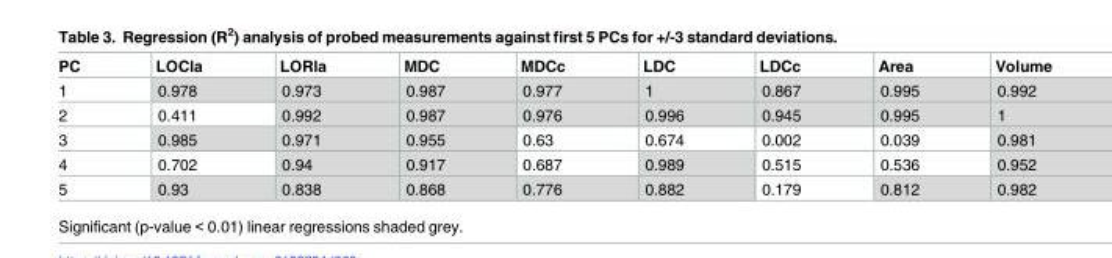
<table><thead><tr><td>PC</td><td>LOCla</td><td>LORla</td><td>MDC</td><td>MDCc</td><td>LDC</td><td>LDCc</td><td>Area</td><td>Volume</td></tr></thead><tbody><tr><td>1</td><td>0.978</td><td>0.973</td><td>0.987</td><td>0.977</td><td>1</td><td>0.867</td><td>0.995</td><td>0.992</td></tr><tr><td>2</td><td>0.411</td><td>0.992</td><td>0.987</td><td>0.976</td><td>0.996</td><td>0.945</td><td>0.995</td><td>1</td></tr><tr><td>3</td><td>0.985</td><td>0.971</td><td>0.955</td><td>0.63</td><td>0.674</td><td>0.002</td><td>0.039</td><td>0.981</td></tr><tr><td>4</td><td>0.702</td><td>0.94</td><td>0.917</td><td>0.687</td><td>0.989</td><td>0.515</td><td>0.536</td><td>0.952</td></tr><tr><td>5</td><td>0.93</td><td>0.838</td><td>0.868</td><td>0.776</td><td>0.882</td><td>0.179</td><td>0.812</td><td>0.982</td></tr></tbody></table>